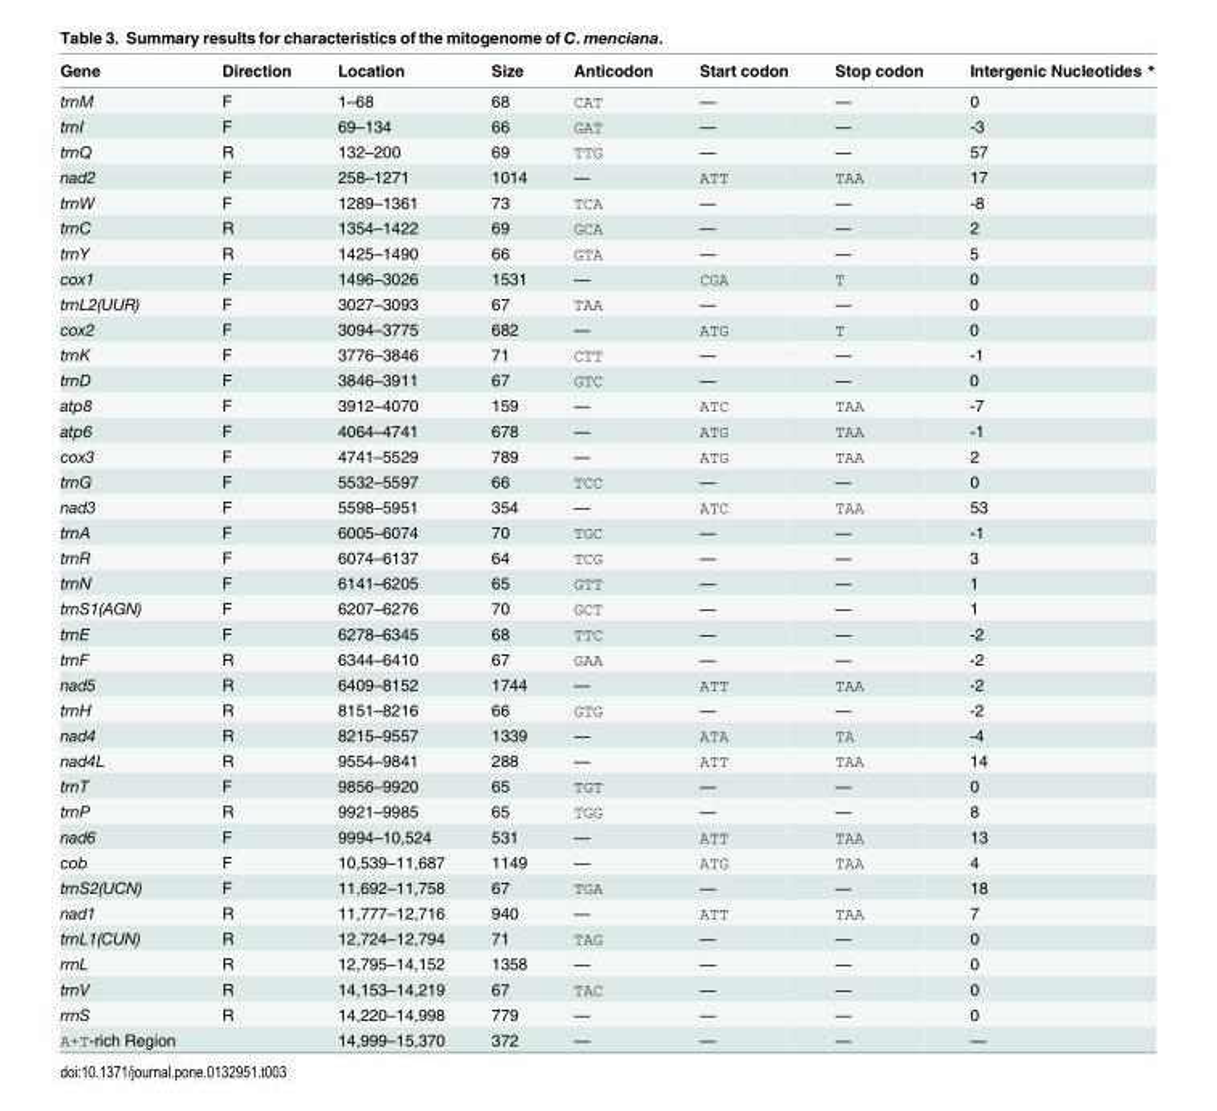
<table><thead><tr><td>Gene</td><td>Direction</td><td>Location</td><td>Size</td><td>Anticodon</td><td>Start codon</td><td>Stop codon</td><td>Intergenic Nucleotides *</td></tr></thead><tbody><tr><td>trnM</td><td>F</td><td>1–68</td><td>68</td><td>CAT</td><td>—</td><td>—</td><td>0</td></tr><tr><td>trnI</td><td>F</td><td>69–134</td><td>66</td><td>GAT</td><td>—</td><td>—</td><td>-3</td></tr><tr><td>trnQ</td><td>R</td><td>132–200</td><td>69</td><td>TTG</td><td>—</td><td>—</td><td>57</td></tr><tr><td>nad2</td><td>F</td><td>258–1271</td><td>1014</td><td>—</td><td>ATT</td><td>TAA</td><td>17</td></tr><tr><td>trnW</td><td>F</td><td>1289–1361</td><td>73</td><td>TCA</td><td>—</td><td>—</td><td>-8</td></tr><tr><td>trnC</td><td>R</td><td>1354–1422</td><td>69</td><td>GCA</td><td>—</td><td>—</td><td>2</td></tr><tr><td>trnY</td><td>R</td><td>1425–1490</td><td>66</td><td>GTA</td><td>—</td><td>—</td><td>5</td></tr><tr><td>cox1</td><td>F</td><td>1496–3026</td><td>1531</td><td>—</td><td>CGA</td><td>T</td><td>0</td></tr><tr><td>trnL2(UUR)</td><td>F</td><td>3027–3093</td><td>67</td><td>TAA</td><td>—</td><td>—</td><td>0</td></tr><tr><td>cox2</td><td>F</td><td>3094–3775</td><td>682</td><td>—</td><td>ATG</td><td>T</td><td>0</td></tr><tr><td>trnK</td><td>F</td><td>3776–3846</td><td>71</td><td>CTT</td><td>—</td><td>—</td><td>-1</td></tr><tr><td>trnD</td><td>F</td><td>3846–3911</td><td>67</td><td>GTC</td><td>—</td><td>—</td><td>0</td></tr><tr><td>atp8</td><td>F</td><td>3912–4070</td><td>159</td><td>—</td><td>ATC</td><td>TAA</td><td>-7</td></tr><tr><td>atp6</td><td>F</td><td>4064–4741</td><td>678</td><td>—</td><td>ATG</td><td>TAA</td><td>-1</td></tr><tr><td>cox3</td><td>F</td><td>4741–5529</td><td>789</td><td>—</td><td>ATG</td><td>TAA</td><td>2</td></tr><tr><td>trnG</td><td>F</td><td>5532–5597</td><td>66</td><td>TCC</td><td>—</td><td>—</td><td>0</td></tr><tr><td>nad3</td><td>F</td><td>5598–5951</td><td>354</td><td>—</td><td>ATC</td><td>TAA</td><td>53</td></tr><tr><td>trnA</td><td>F</td><td>6005–6074</td><td>70</td><td>TGC</td><td>—</td><td>—</td><td>-1</td></tr><tr><td>trnR</td><td>F</td><td>6074–6137</td><td>64</td><td>TCG</td><td>—</td><td>—</td><td>3</td></tr><tr><td>trnN</td><td>F</td><td>6141–6205</td><td>65</td><td>GTT</td><td>—</td><td>—</td><td>1</td></tr><tr><td>trnS1(AGN)</td><td>F</td><td>6207–6276</td><td>70</td><td>GCT</td><td>—</td><td>—</td><td>1</td></tr><tr><td>trnE</td><td>F</td><td>6278–6345</td><td>68</td><td>TTC</td><td>—</td><td>—</td><td>-2</td></tr><tr><td>trnF</td><td>R</td><td>6344–6410</td><td>67</td><td>GAA</td><td>—</td><td>—</td><td>-2</td></tr><tr><td>nad5</td><td>R</td><td>6409–8152</td><td>1744</td><td>—</td><td>ATT</td><td>TAA</td><td>-2</td></tr><tr><td>trnH</td><td>R</td><td>8151–8216</td><td>66</td><td>GTG</td><td>—</td><td>—</td><td>-2</td></tr><tr><td>nad4</td><td>R</td><td>8215–9557</td><td>1339</td><td>—</td><td>ATA</td><td>TA</td><td>-4</td></tr><tr><td>nad4L</td><td>R</td><td>9554–9841</td><td>288</td><td>—</td><td>ATT</td><td>TAA</td><td>14</td></tr><tr><td>trnT</td><td>F</td><td>9856–9920</td><td>65</td><td>TGT</td><td>—</td><td>—</td><td>0</td></tr><tr><td>trnP</td><td>R</td><td>9921–9985</td><td>65</td><td>TGG</td><td>—</td><td>—</td><td>8</td></tr><tr><td>nad6</td><td>F</td><td>9994–10,524</td><td>531</td><td>—</td><td>ATT</td><td>TAA</td><td>13</td></tr><tr><td>cob</td><td>F</td><td>10,539–11,687</td><td>1149</td><td>—</td><td>ATG</td><td>TAA</td><td>4</td></tr><tr><td>trnS2(UCN)</td><td>F</td><td>11,692–11,758</td><td>67</td><td>TGA</td><td>—</td><td>—</td><td>18</td></tr><tr><td>nad1</td><td>R</td><td>11,777–12,716</td><td>940</td><td>—</td><td>ATT</td><td>TAA</td><td>7</td></tr><tr><td>trnL1(CUN)</td><td>R</td><td>12,724–12,794</td><td>71</td><td>TAG</td><td>—</td><td>—</td><td>0</td></tr><tr><td>rrnL</td><td>R</td><td>12,795–14,152</td><td>1358</td><td>—</td><td>—</td><td>—</td><td>0</td></tr><tr><td>trnV</td><td>R</td><td>14,153–14,219</td><td>67</td><td>TAC</td><td>—</td><td>—</td><td>0</td></tr><tr><td>rrnS</td><td>R</td><td>14,220–14,998</td><td>779</td><td>—</td><td>—</td><td>—</td><td>0</td></tr><tr><td>A+T-rich Region</td><td></td><td>14,999–15,370</td><td>372</td><td>—</td><td>—</td><td>—</td><td>—</td></tr></tbody></table>